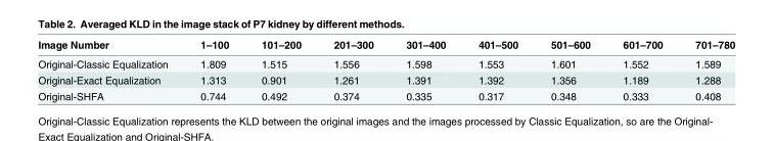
<table><thead><tr><td>Image Number</td><td>1–100</td><td>101–200</td><td>201–300</td><td>301–400</td><td>401–500</td><td>501–600</td><td>601–700</td><td>701–780</td></tr></thead><tbody><tr><td>Original-Classic Equalization</td><td>1.809</td><td>1.515</td><td>1.556</td><td>1.598</td><td>1.553</td><td>1.601</td><td>1.552</td><td>1.589</td></tr><tr><td>Original-Exact Equalization</td><td>1.313</td><td>0.901</td><td>1.261</td><td>1.391</td><td>1.392</td><td>1.356</td><td>1.189</td><td>1.288</td></tr><tr><td>Original-SHFA</td><td>0.744</td><td>0.492</td><td>0.374</td><td>0.335</td><td>0.317</td><td>0.348</td><td>0.333</td><td>0.408</td></tr></tbody></table>